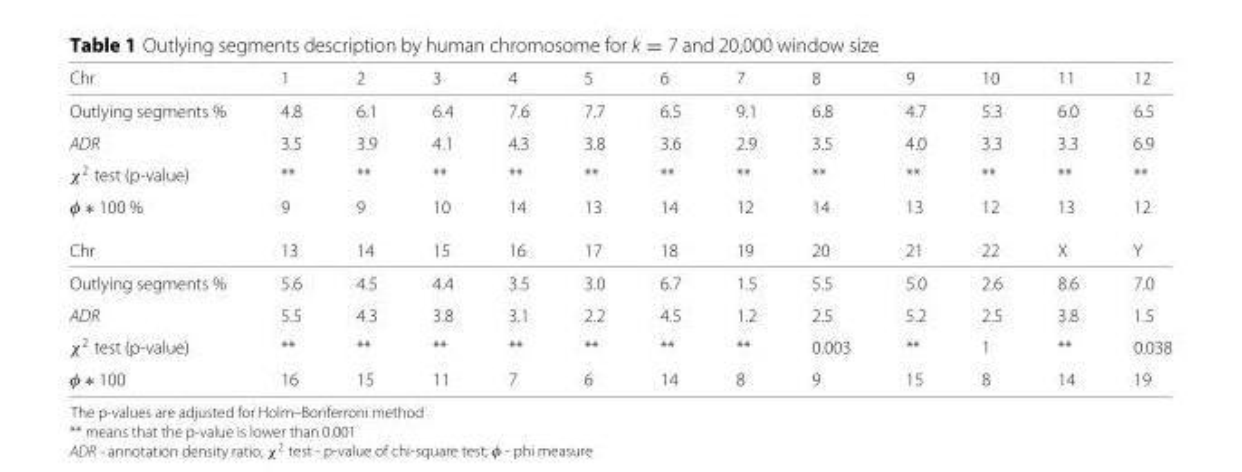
<table><thead><tr><td>Chr</td><td>1</td><td>2</td><td>3</td><td>4</td><td>5</td><td>6</td><td>7</td><td>8</td><td>9</td><td>10</td><td>11</td><td>12</td></tr></thead><tbody><tr><td>Outlying segments %</td><td>4.8</td><td>6.1</td><td>6.4</td><td>7.6</td><td>7.7</td><td>6.5</td><td>9.1</td><td>6.8</td><td>4.7</td><td>5.3</td><td>6.0</td><td>6.5</td></tr><tr><td>ADR</td><td>3.5</td><td>3.9</td><td>4.1</td><td>4.3</td><td>3.8</td><td>3.6</td><td>2.9</td><td>3.5</td><td>4.0</td><td>3.3</td><td>3.3</td><td>6.9</td></tr><tr><td>χ<sup>2</sup> test (p-value)</td><td>**</td><td>**</td><td>**</td><td>**</td><td>**</td><td>**</td><td>**</td><td>**</td><td>**</td><td>**</td><td>**</td><td>**</td></tr><tr><td>φ ∗ 100 %</td><td>9</td><td>9</td><td>10</td><td>14</td><td>13</td><td>14</td><td>12</td><td>14</td><td>13</td><td>12</td><td>13</td><td>12</td></tr><tr><td>Chr</td><td>13</td><td>14</td><td>15</td><td>16</td><td>17</td><td>18</td><td>19</td><td>20</td><td>21</td><td>22</td><td>X</td><td>Y</td></tr><tr><td>Outlying segments %</td><td>5.6</td><td>4.5</td><td>4.4</td><td>3.5</td><td>3.0</td><td>6.7</td><td>1.5</td><td>5.5</td><td>5.0</td><td>2.6</td><td>8.6</td><td>7.0</td></tr><tr><td>ADR</td><td>5.5</td><td>4.3</td><td>3.8</td><td>3.1</td><td>2.2</td><td>4.5</td><td>1.2</td><td>2.5</td><td>5.2</td><td>2.5</td><td>3.8</td><td>1.5</td></tr><tr><td>χ<sup>2</sup> test (p-value)</td><td>**</td><td>**</td><td>**</td><td>**</td><td>**</td><td>**</td><td>**</td><td>0.003</td><td>**</td><td>1</td><td>**</td><td>0.038</td></tr><tr><td>φ ∗ 100</td><td>16</td><td>15</td><td>11</td><td>7</td><td>6</td><td>14</td><td>8</td><td>9</td><td>15</td><td>8</td><td>14</td><td>19</td></tr></tbody></table>